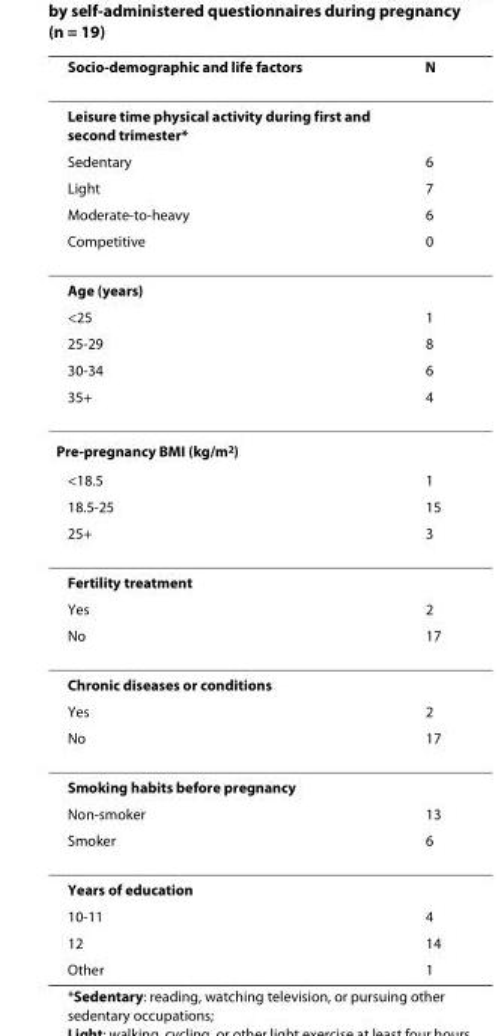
<table><thead><tr><td>Socio-demographic and life factors</td><td>N</td></tr></thead><tbody><tr><td colspan="2">Leisure time physical activity during first and second trimester*</td></tr><tr><td>Sedentary</td><td>6</td></tr><tr><td>Light</td><td>7</td></tr><tr><td>Moderate-to-heavy</td><td>6</td></tr><tr><td>Competitive</td><td>0</td></tr><tr><td colspan="2">Age (years)</td></tr><tr><td>&lt;25</td><td>1</td></tr><tr><td>25-29</td><td>8</td></tr><tr><td>30-34</td><td>6</td></tr><tr><td>35+</td><td>4</td></tr><tr><td colspan="2">Pre-pregnancy BMI (kg/m<sup>2</sup>)</td></tr><tr><td>&lt;18.5</td><td>1</td></tr><tr><td>18.5-25</td><td>15</td></tr><tr><td>25+</td><td>3</td></tr><tr><td colspan="2">Fertility treatment</td></tr><tr><td>Yes</td><td>2</td></tr><tr><td>No</td><td>17</td></tr><tr><td colspan="2">Chronic diseases or conditions</td></tr><tr><td>Yes</td><td>2</td></tr><tr><td>No</td><td>17</td></tr><tr><td colspan="2">Smoking habits before pregnancy</td></tr><tr><td>Non-smoker</td><td>13</td></tr><tr><td>Smoker</td><td>6</td></tr><tr><td colspan="2">Years of education</td></tr><tr><td>10-11</td><td>4</td></tr><tr><td>12</td><td>14</td></tr><tr><td>Other</td><td>1</td></tr></tbody></table>